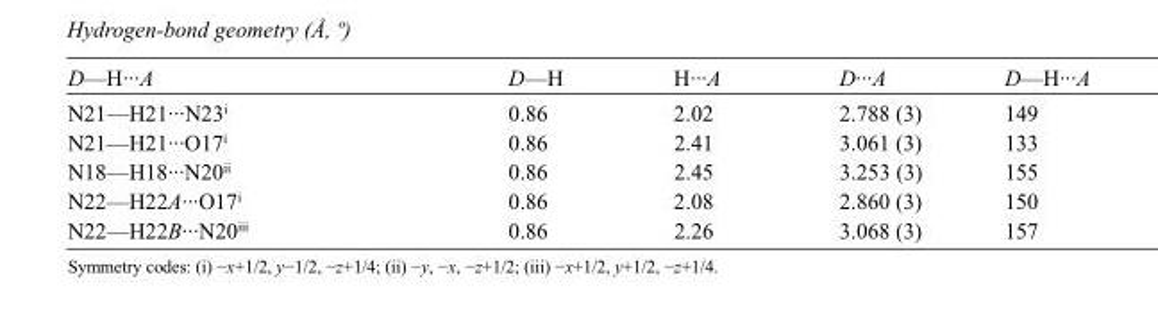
<table><tbody><tr><td>D—H···A</td><td>D—H</td><td>H···A</td><td>D···A</td><td>D—H···A</td></tr><tr><td>N21—H21···N23<sup>i</sup></td><td>0.86</td><td>2.02</td><td>2.788 (3)</td><td>149</td></tr><tr><td>N21—H21···O17<sup>i</sup></td><td>0.86</td><td>2.41</td><td>3.061 (3)</td><td>133</td></tr><tr><td>N18—H18···N20<sup>ii</sup></td><td>0.86</td><td>2.45</td><td>3.253 (3)</td><td>155</td></tr><tr><td>N22—H22A···O17<sup>i</sup></td><td>0.86</td><td>2.08</td><td>2.860 (3)</td><td>150</td></tr><tr><td>N22—H22B···N20<sup>iii</sup></td><td>0.86</td><td>2.26</td><td>3.068 (3)</td><td>157</td></tr></tbody></table>